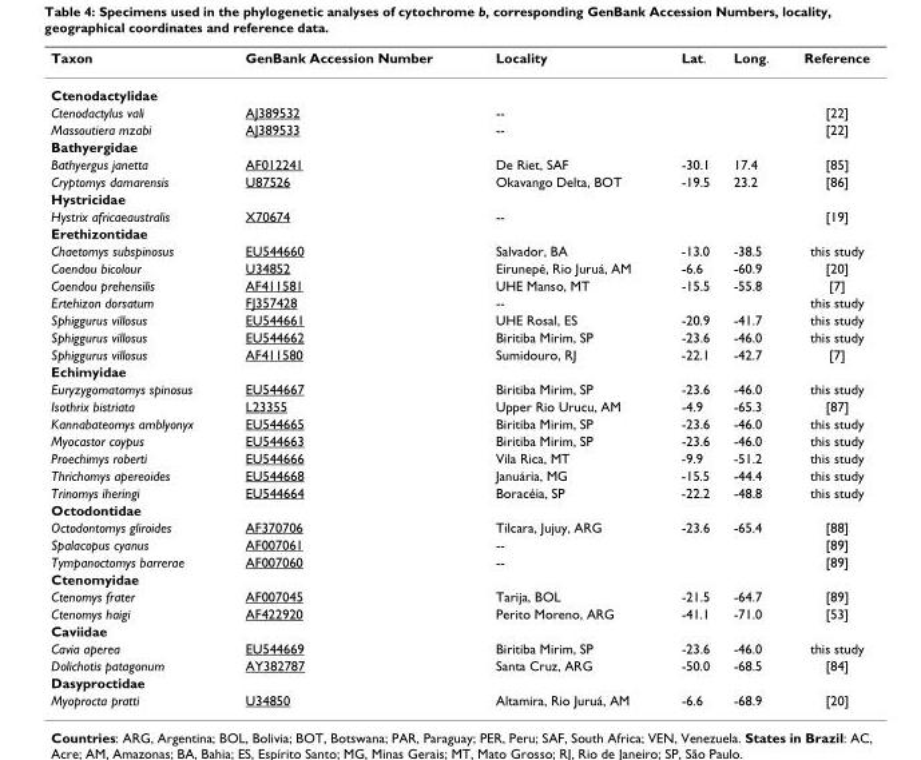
<table><thead><tr><td>Taxon</td><td>GenBank Accession Number</td><td>Locality</td><td>Lat.</td><td>Long.</td><td>Reference</td></tr></thead><tbody><tr><td colspan="6">Ctenodactylidae</td></tr><tr><td>Ctenodactylus vali</td><td>AJ389532</td><td>--</td><td></td><td></td><td>[22]</td></tr><tr><td>Massoutiera mzabi</td><td>AJ389533</td><td>--</td><td></td><td></td><td>[22]</td></tr><tr><td colspan="6">Bathyergidae</td></tr><tr><td>Bathyergus janetta</td><td>AF012241</td><td>De Riet, SAF</td><td>-30.1</td><td>17.4</td><td>[85]</td></tr><tr><td>Cryptomys damarensis</td><td>U87526</td><td>Okavango Delta, BOT</td><td>-19.5</td><td>23.2</td><td>[86]</td></tr><tr><td colspan="6">Hystricidae</td></tr><tr><td>Hystrix africaeaustralis</td><td>X70674</td><td>--</td><td></td><td></td><td>[19]</td></tr><tr><td colspan="6">Erethizontidae</td></tr><tr><td>Chaetomys subspinosus</td><td>EU544660</td><td>Salvador, BA</td><td>-13.0</td><td>-38.5</td><td>this study</td></tr><tr><td>Coendou bicolour</td><td>U34852</td><td>Eirunepé, Rio Juruá, AM</td><td>-6.6</td><td>-60.9</td><td>[20]</td></tr><tr><td>Coendou prehensilis</td><td>AF411581</td><td>UHE Manso, MT</td><td>-15.5</td><td>-55.8</td><td>[7]</td></tr><tr><td>Ertehizon dorsatum</td><td>FJ357428</td><td>--</td><td></td><td></td><td>this study</td></tr><tr><td>Sphiggurus villosus</td><td>EU544661</td><td>UHE Rosal, ES</td><td>-20.9</td><td>-41.7</td><td>this study</td></tr><tr><td>Sphiggurus villosus</td><td>EU544662</td><td>Biritiba Mirim, SP</td><td>-23.6</td><td>-46.0</td><td>this study</td></tr><tr><td>Sphiggurus villosus</td><td>AF411580</td><td>Sumidouro, RJ</td><td>-22.1</td><td>-42.7</td><td>[7]</td></tr><tr><td colspan="6">Echimyidae</td></tr><tr><td>Euryzygomatomys spinosus</td><td>EU544667</td><td>Biritiba Mirim, SP</td><td>-23.6</td><td>-46.0</td><td>this study</td></tr><tr><td>Isothrix bistriata</td><td>L23355</td><td>Upper Rio Urucu, AM</td><td>-4.9</td><td>-65.3</td><td>[87]</td></tr><tr><td>Kannabateomys amblyonyx</td><td>EU544665</td><td>Biritiba Mirim, SP</td><td>-23.6</td><td>-46.0</td><td>this study</td></tr><tr><td>Myocastor coypus</td><td>EU544663</td><td>Biritiba Mirim, SP</td><td>-23.6</td><td>-46.0</td><td>this study</td></tr><tr><td>Proechimys roberti</td><td>EU544666</td><td>Vila Rica, MT</td><td>-9.9</td><td>-51.2</td><td>this study</td></tr><tr><td>Thrichomys apereoides</td><td>EU544668</td><td>Januária, MG</td><td>-15.5</td><td>-44.4</td><td>this study</td></tr><tr><td>Trinomys iheringi</td><td>EU544664</td><td>Boracéia, SP</td><td>-22.2</td><td>-48.8</td><td>this study</td></tr><tr><td colspan="6">Octodontidae</td></tr><tr><td>Octodontomys gliroides</td><td>AF370706</td><td>Tilcara, Jujuy, ARG</td><td>-23.6</td><td>-65.4</td><td>[88]</td></tr><tr><td>Spalacopus cyanus</td><td>AF007061</td><td>--</td><td></td><td></td><td>[89]</td></tr><tr><td>Tympanoctomys barrerae</td><td>AF007060</td><td>--</td><td></td><td></td><td>[89]</td></tr><tr><td colspan="6">Ctenomyidae</td></tr><tr><td>Ctenomys frater</td><td>AF007045</td><td>Tarija, BOL</td><td>-21.5</td><td>-64.7</td><td>[89]</td></tr><tr><td>Ctenomys haigi</td><td>AF422920</td><td>Perito Moreno, ARG</td><td>-41.1</td><td>-71.0</td><td>[53]</td></tr><tr><td colspan="6">Caviidae</td></tr><tr><td>Cavia aperea</td><td>EU544669</td><td>Biritiba Mirim, SP</td><td>-23.6</td><td>-46.0</td><td>this study</td></tr><tr><td>Dolichotis patagonum</td><td>AY382787</td><td>Santa Cruz, ARG</td><td>-50.0</td><td>-68.5</td><td>[84]</td></tr><tr><td colspan="6">Dasyproctidae</td></tr><tr><td>Myoprocta pratti</td><td>U34850</td><td>Altamira, Rio Juruá, AM</td><td>-6.6</td><td>-68.9</td><td>[20]</td></tr></tbody></table>